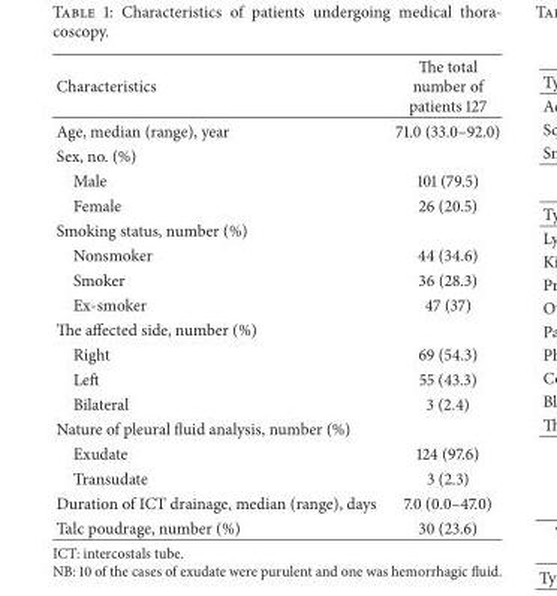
<table><thead><tr><td>Characteristics</td><td>The total number of patients 127</td></tr></thead><tbody><tr><td>Age, median (range), year</td><td>71.0 (33.0–92.0)</td></tr><tr><td colspan="2">Sex, no. (%)</td></tr><tr><td>Male</td><td>101 (79.5)</td></tr><tr><td>Female</td><td>26 (20.5)</td></tr><tr><td colspan="2">Smoking status, number (%)</td></tr><tr><td>Nonsmoker</td><td>44 (34.6)</td></tr><tr><td>Smoker</td><td>36 (28.3)</td></tr><tr><td>Ex-smoker</td><td>47 (37)</td></tr><tr><td colspan="2">The affected side, number (%)</td></tr><tr><td>Right</td><td>69 (54.3)</td></tr><tr><td>Left</td><td>55 (43.3)</td></tr><tr><td>Bilateral</td><td>3 (2.4)</td></tr><tr><td colspan="2">Nature of pleural fluid analysis, number (%)</td></tr><tr><td>Exudate</td><td>124 (97.6)</td></tr><tr><td>Transudate</td><td>3 (2.3)</td></tr><tr><td>Duration of ICT drainage, median (range), days</td><td>7.0 (0.0–47.0)</td></tr><tr><td>Talc poudrage, number (%)</td><td>30 (23.6)</td></tr></tbody></table>